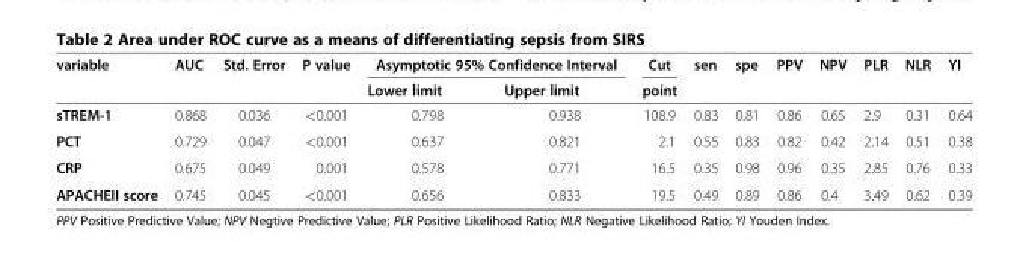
<table><thead><tr><td rowspan="2">variable</td><td rowspan="2">AUC</td><td rowspan="2">Std. Error</td><td rowspan="2">P value</td><td colspan="2">Asymptotic 95% Confidence Interval</td><td rowspan="2">Cut point</td><td rowspan="2">sen</td><td rowspan="2">spe</td><td rowspan="2">PPV</td><td rowspan="2">NPV</td><td rowspan="2">PLR</td><td rowspan="2">NLR</td><td rowspan="2">YI</td></tr><tr><td>Lower limit</td><td>Upper limit</td></tr></thead><tbody><tr><td>sTREM-1</td><td>0.868</td><td>0.036</td><td>&lt;0.001</td><td>0.798</td><td>0.938</td><td>108.9</td><td>0.83</td><td>0.81</td><td>0.86</td><td>0.65</td><td>2.9</td><td>0.31</td><td>0.64</td></tr><tr><td>PCT</td><td>0.729</td><td>0.047</td><td>&lt;0.001</td><td>0.637</td><td>0.821</td><td>2.1</td><td>0.55</td><td>0.83</td><td>0.82</td><td>0.42</td><td>2.14</td><td>0.51</td><td>0.38</td></tr><tr><td>CRP</td><td>0.675</td><td>0.049</td><td>0.001</td><td>0.578</td><td>0.771</td><td>16.5</td><td>0.35</td><td>0.98</td><td>0.96</td><td>0.35</td><td>2.85</td><td>0.76</td><td>0.33</td></tr><tr><td>APACHEII score</td><td>0.745</td><td>0.045</td><td>&lt;0.001</td><td>0.656</td><td>0.833</td><td>19.5</td><td>0.49</td><td>0.89</td><td>0.86</td><td>0.4</td><td>3.49</td><td>0.62</td><td>0.39</td></tr></tbody></table>